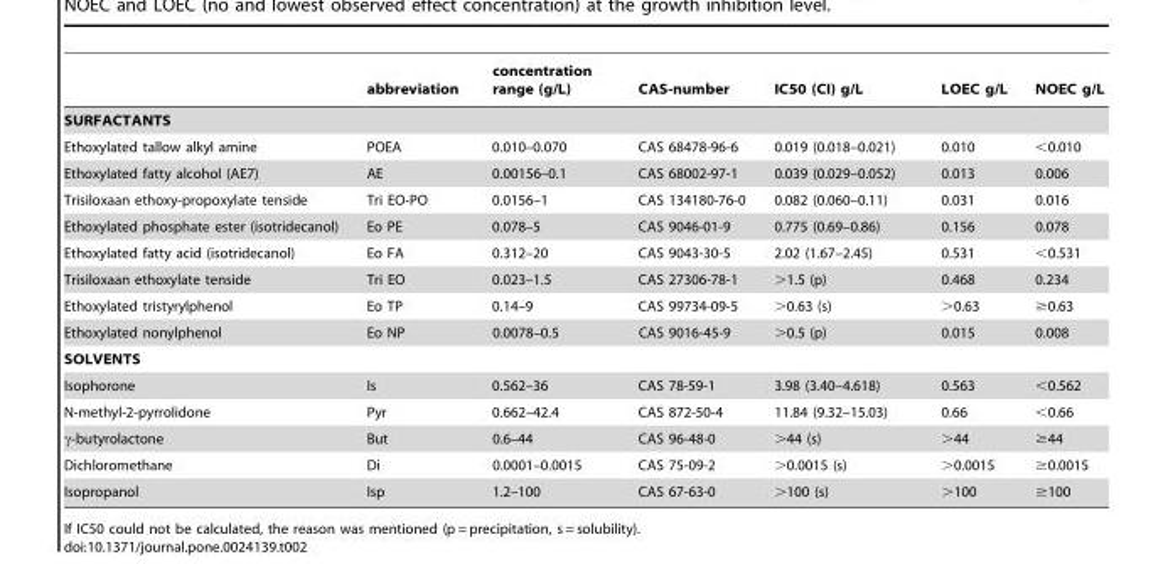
<table><thead><tr><td></td><td>abbreviation</td><td>concentration range (g/L)</td><td>CAS-number</td><td>IC50 (CI) g/L</td><td>LOEC g/L</td><td>NOEC g/L</td></tr></thead><tbody><tr><td colspan="7">SURFACTANTS</td></tr><tr><td>Ethoxylated tallow alkyl amine</td><td>POEA</td><td>0.010–0.070</td><td>CAS 68478-96-6</td><td>0.019 (0.018–0.021)</td><td>0.010</td><td>&lt;0.010</td></tr><tr><td>Ethoxylated fatty alcohol (AE7)</td><td>AE</td><td>0.00156–0.1</td><td>CAS 68002-97-1</td><td>0.039 (0.029–0.052)</td><td>0.013</td><td>0.006</td></tr><tr><td>Trisiloxaan ethoxy-propoxylate tenside</td><td>Tri EO-PO</td><td>0.0156–1</td><td>CAS 134180-76-0</td><td>0.082 (0.060–0.11)</td><td>0.031</td><td>0.016</td></tr><tr><td>Ethoxylated phosphate ester (isotridecanol)</td><td>Eo PE</td><td>0.078–5</td><td>CAS 9046-01-9</td><td>0.775 (0.69–0.86)</td><td>0.156</td><td>0.078</td></tr><tr><td>Ethoxylated fatty acid (isotridecanol)</td><td>Eo FA</td><td>0.312–20</td><td>CAS 9043-30-5</td><td>2.02 (1.67–2.45)</td><td>0.531</td><td>&lt;0.531</td></tr><tr><td>Trisiloxaan ethoxylate tenside</td><td>Tri EO</td><td>0.023–1.5</td><td>CAS 27306-78-1</td><td>&gt;1.5 (p)</td><td>0.468</td><td>0.234</td></tr><tr><td>Ethoxylated tristyrylphenol</td><td>Eo TP</td><td>0.14–9</td><td>CAS 99734-09-5</td><td>&gt;0.63 (s)</td><td>&gt;0.63</td><td>≥0.63</td></tr><tr><td>Ethoxylated nonylphenol</td><td>Eo NP</td><td>0.0078–0.5</td><td>CAS 9016-45-9</td><td>&gt;0.5 (p)</td><td>0.015</td><td>0.008</td></tr><tr><td colspan="7">SOLVENTS</td></tr><tr><td>Isophorone</td><td>Is</td><td>0.562–36</td><td>CAS 78-59-1</td><td>3.98 (3.40–4.618)</td><td>0.563</td><td>&lt;0.562</td></tr><tr><td>N-methyl-2-pyrrolidone</td><td>Pyr</td><td>0.662–42.4</td><td>CAS 872-50-4</td><td>11.84 (9.32–15.03)</td><td>0.66</td><td>&lt;0.66</td></tr><tr><td>γ-butyrolactone</td><td>But</td><td>0.6–44</td><td>CAS 96-48-0</td><td>&gt;44 (s)</td><td>&gt;44</td><td>≥44</td></tr><tr><td>Dichloromethane</td><td>Di</td><td>0.0001–0.0015</td><td>CAS 75-09-2</td><td>&gt;0.0015 (s)</td><td>&gt;0.0015</td><td>≥0.0015</td></tr><tr><td>Isopropanol</td><td>Isp</td><td>1.2–100</td><td>CAS 67-63-0</td><td>&gt;100 (s)</td><td>&gt;100</td><td>≥100</td></tr></tbody></table>